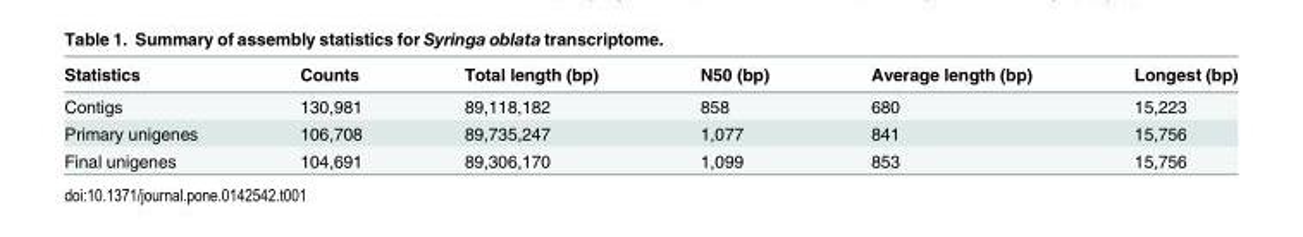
<table><thead><tr><td>Statistics</td><td>Counts</td><td>Total length (bp)</td><td>N50 (bp)</td><td>Average length (bp)</td><td>Longest (bp)</td></tr></thead><tbody><tr><td>Contigs</td><td>130,981</td><td>89,118,182</td><td>858</td><td>680</td><td>15,223</td></tr><tr><td>Primary unigenes</td><td>106,708</td><td>89,735,247</td><td>1,077</td><td>841</td><td>15,756</td></tr><tr><td>Final unigenes</td><td>104,691</td><td>89,306,170</td><td>1,099</td><td>853</td><td>15,756</td></tr></tbody></table>